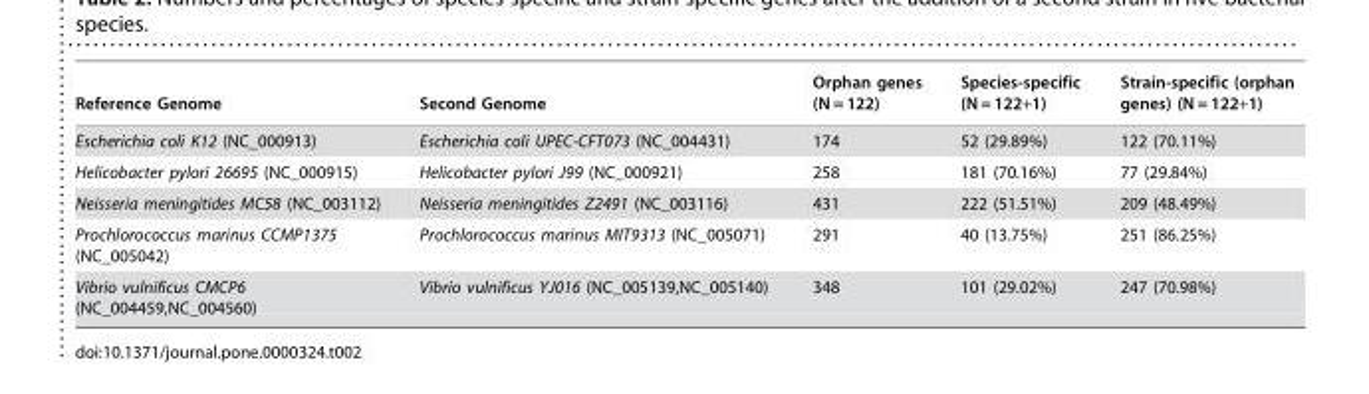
<table><thead><tr><td>Reference Genome</td><td>Second Genome</td><td>Orphan genes (N = 122)</td><td>Species-specific (N = 122+1)</td><td>Strain-specific (orphan genes) (N = 122+1)</td></tr></thead><tbody><tr><td>Escherichia coli K12 (NC_000913)</td><td>Escherichia coli UPEC-CFT073 (NC_004431)</td><td>174</td><td>52 (29.89%)</td><td>122 (70.11%)</td></tr><tr><td>Helicobacter pylori 26695 (NC_000915)</td><td>Helicobacter pylori J99 (NC_000921)</td><td>258</td><td>181 (70.16%)</td><td>77 (29.84%)</td></tr><tr><td>Neisseria meningitides MC58 (NC_003112)</td><td>Neisseria meningitides Z2491 (NC_003116)</td><td>431</td><td>222 (51.51%)</td><td>209 (48.49%)</td></tr><tr><td>Prochlorococcus marinus CCMP1375 (NC_005042)</td><td>Prochlorococcus marinus MIT9313 (NC_005071)</td><td>291</td><td>40 (13.75%)</td><td>251 (86.25%)</td></tr><tr><td>Vibrio vulnificus CMCP6 (NC_004459,NC_004560)</td><td>Vibrio vulnificus YJ016 (NC_005139,NC_005140)</td><td>348</td><td>101 (29.02%)</td><td>247 (70.98%)</td></tr></tbody></table>